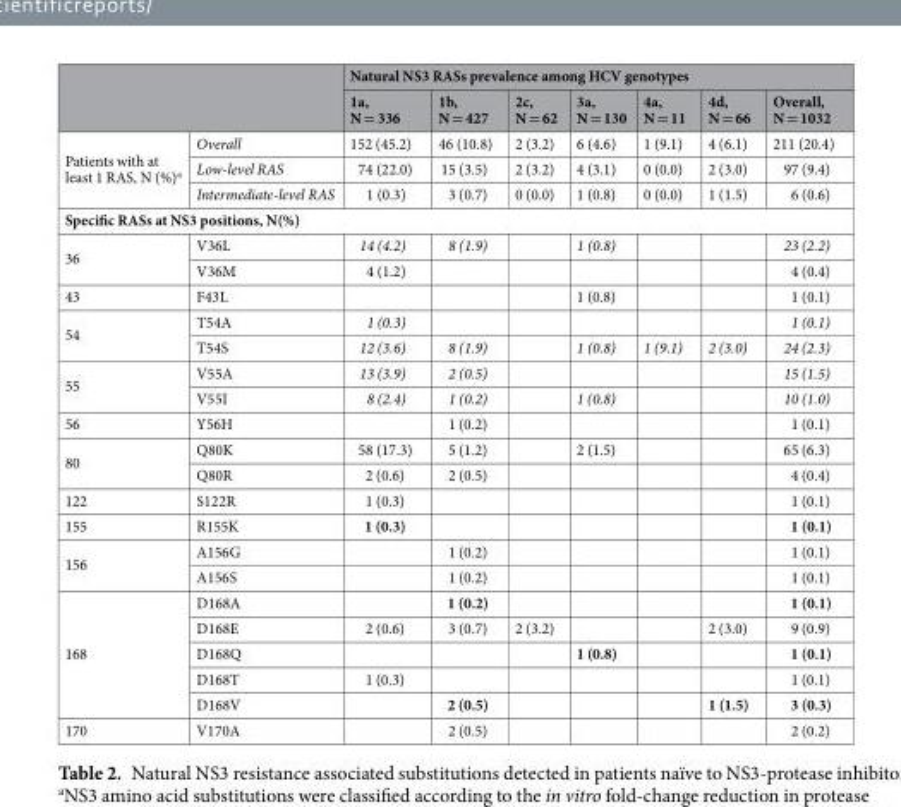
<table><thead><tr><td rowspan="2"></td><td rowspan="2"></td><td colspan="7">Natural NS3 RASs prevalence among HCV genotypes</td></tr><tr><td>1a, N = 336</td><td>1b, N = 427</td><td>2c, N = 62</td><td>3a, N = 130</td><td>4a, N = 11</td><td>4d, N = 66</td><td>Overall, N = 1032</td></tr></thead><tbody><tr><td rowspan="3">Patients with at least 1 RAS, N (%)<sup>a</sup></td><td>Overall</td><td>152 (45.2)</td><td>46 (10.8)</td><td>2 (3.2)</td><td>6 (4.6)</td><td>1 (9.1)</td><td>4 (6.1)</td><td>211 (20.4)</td></tr><tr><td>Low-level RAS</td><td>74 (22.0)</td><td>15 (3.5)</td><td>2 (3.2)</td><td>4 (3.1)</td><td>0 (0.0)</td><td>2 (3.0)</td><td>97 (9.4)</td></tr><tr><td>Intermediate-level RAS</td><td>1 (0.3)</td><td>3 (0.7)</td><td>0 (0.0)</td><td>1 (0.8)</td><td>0 (0.0)</td><td>1 (1.5)</td><td>6 (0.6)</td></tr><tr><td colspan="9">Specific RASs at NS3 positions, N(%)</td></tr><tr><td rowspan="2">36</td><td>V36L</td><td>14 (4.2)</td><td>8 (1.9)</td><td></td><td>1 (0.8)</td><td></td><td></td><td>23 (2.2)</td></tr><tr><td>V36M</td><td>4 (1.2)</td><td></td><td></td><td></td><td></td><td></td><td>4 (0.4)</td></tr><tr><td>43</td><td>F43L</td><td></td><td></td><td></td><td>1 (0.8)</td><td></td><td></td><td>1 (0.1)</td></tr><tr><td rowspan="2">54</td><td>T54A</td><td>1 (0.3)</td><td></td><td></td><td></td><td></td><td></td><td>1 (0.1)</td></tr><tr><td>T54S</td><td>12 (3.6)</td><td>8 (1.9)</td><td></td><td>1 (0.8)</td><td>1 (9.1)</td><td>2 (3.0)</td><td>24 (2.3)</td></tr><tr><td rowspan="2">55</td><td>V55A</td><td>13 (3.9)</td><td>2 (0.5)</td><td></td><td></td><td></td><td></td><td>15 (1.5)</td></tr><tr><td>V55I</td><td>8 (2.4)</td><td>1 (0.2)</td><td></td><td>1 (0.8)</td><td></td><td></td><td>10 (1.0)</td></tr><tr><td>56</td><td>Y56H</td><td></td><td>1 (0.2)</td><td></td><td></td><td></td><td></td><td>1 (0.1)</td></tr><tr><td rowspan="2">80</td><td>Q80K</td><td>58 (17.3)</td><td>5 (1.2)</td><td></td><td>2 (1.5)</td><td></td><td></td><td>65 (6.3)</td></tr><tr><td>Q80R</td><td>2 (0.6)</td><td>2 (0.5)</td><td></td><td></td><td></td><td></td><td>4 (0.4)</td></tr><tr><td>122</td><td>S122R</td><td>1 (0.3)</td><td></td><td></td><td></td><td></td><td></td><td>1 (0.1)</td></tr><tr><td>155</td><td>R155K</td><td>1 (0.3)</td><td></td><td></td><td></td><td></td><td></td><td>1 (0.1)</td></tr><tr><td rowspan="2">156</td><td>A156G</td><td></td><td>1 (0.2)</td><td></td><td></td><td></td><td></td><td>1 (0.1)</td></tr><tr><td>A156S</td><td></td><td>1 (0.2)</td><td></td><td></td><td></td><td></td><td>1 (0.1)</td></tr><tr><td rowspan="5">168</td><td>D168A</td><td></td><td>1 (0.2)</td><td></td><td></td><td></td><td></td><td>1 (0.1)</td></tr><tr><td>D168E</td><td>2 (0.6)</td><td>3 (0.7)</td><td>2 (3.2)</td><td></td><td></td><td>2 (3.0)</td><td>9 (0.9)</td></tr><tr><td>D168Q</td><td></td><td></td><td></td><td>1 (0.8)</td><td></td><td></td><td>1 (0.1)</td></tr><tr><td>D168T</td><td>1 (0.3)</td><td></td><td></td><td></td><td></td><td></td><td>1 (0.1)</td></tr><tr><td>D168V</td><td></td><td>2 (0.5)</td><td></td><td></td><td></td><td>1 (1.5)</td><td>3 (0.3)</td></tr><tr><td>170</td><td>V170A</td><td></td><td>2 (0.5)</td><td></td><td></td><td></td><td></td><td>2 (0.2)</td></tr></tbody></table>